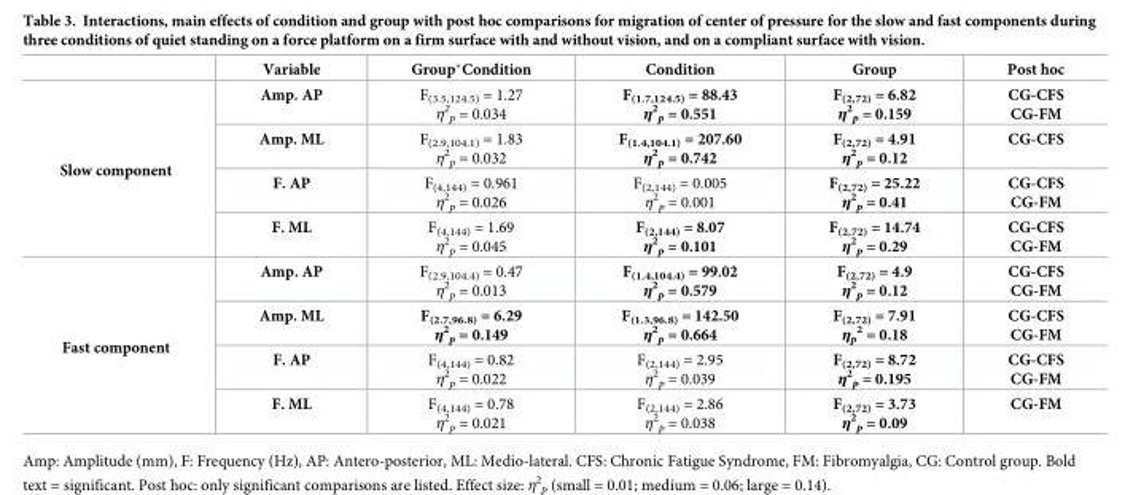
<table><thead><tr><td></td><td>Variable</td><td>Group*Condition</td><td>Condition</td><td>Group</td><td>Post hoc</td></tr></thead><tbody><tr><td rowspan="4">Slow component</td><td>Amp. AP</td><td>F<sub>(3.5,124.5)</sub> = 1.27 η<sup>2</sup> <sub>p</sub> = 0.034</td><td>F<sub>(1.7,124.5)</sub> = 88.43 η<sup>2</sup> <sub>p</sub> = 0.551</td><td>F<sub>(2,72)</sub> = 6.82 η<sup>2</sup> <sub>p</sub> = 0.159</td><td>CG-CFS CG-FM</td></tr><tr><td>Amp. ML</td><td>F<sub>(2.9,104.1)</sub> = 1.83 η<sup>2</sup> <sub>p</sub> = 0.032</td><td>F<sub>(1.4,104.1)</sub> = 207.60 η<sup>2</sup> <sub>p</sub> = 0.742</td><td>F<sub>(2,72)</sub> = 4.91 η<sup>2</sup> <sub>p</sub> = 0.12</td><td>CG-CFS</td></tr><tr><td>F. AP</td><td>F<sub>(4,144)</sub> = 0.961 η<sup>2</sup> <sub>p</sub> = 0.026</td><td>F<sub>(2,144)</sub> = 0.005 η<sup>2</sup> <sub>p</sub> = 0.001</td><td>F<sub>(2,72)</sub> = 25.22 η<sup>2</sup> <sub>p</sub> = 0.41</td><td>CG-CFS CG-FM</td></tr><tr><td>F. ML</td><td>F<sub>(4,144)</sub> = 1.69 η<sup>2</sup> <sub>p</sub> = 0.045</td><td>F<sub>(2,144)</sub> = 8.07 η<sup>2</sup> <sub>p</sub> = 0.101</td><td>F<sub>(2,72)</sub> = 14.74 η<sup>2</sup> <sub>p</sub> = 0.29</td><td>CG-CFS CG-FM</td></tr><tr><td rowspan="4">Fast component</td><td>Amp. AP</td><td>F<sub>(2.9,104.4)</sub> = 0.47 η<sup>2</sup> <sub>p</sub> = 0.013</td><td>F<sub>(1.4,104.4)</sub> = 99.02 η<sup>2</sup> <sub>p</sub> = 0.579</td><td>F<sub>(2,72)</sub> = 4.9 η<sup>2</sup> <sub>p</sub> = 0.12</td><td>CG-CFS CG-FM</td></tr><tr><td>Amp. ML</td><td>F<sub>(2.7,96.8)</sub> = 6.29 η<sup>2</sup> <sub>p</sub> = 0.149</td><td>F<sub>(1.3,96.8)</sub> = 142.50 η<sup>2</sup> <sub>p</sub> = 0.664</td><td>F<sub>(2,72)</sub> = 7.91 η<sub>p</sub> <sup>2</sup> = 0.18</td><td>CG-CFS CG-FM</td></tr><tr><td>F. AP</td><td>F<sub>(4,144)</sub> = 0.82 η<sup>2</sup> <sub>p</sub> = 0.022</td><td>F<sub>(2,144)</sub> = 2.95 η<sup>2</sup> <sub>p</sub> = 0.039</td><td>F<sub>(2,72)</sub> = 8.72 η<sup>2</sup> <sub>p</sub> = 0.195</td><td>CG-CFS CG-FM</td></tr><tr><td>F. ML</td><td>F<sub>(4,144)</sub> = 0.78 η<sup>2</sup> <sub>p</sub> = 0.021</td><td>F<sub>(2,144)</sub> = 2.86 η<sup>2</sup> <sub>p</sub> = 0.038</td><td>F<sub>(2,72)</sub> = 3.73 η<sup>2</sup> <sub>p</sub> = 0.09</td><td>CG-FM</td></tr></tbody></table>